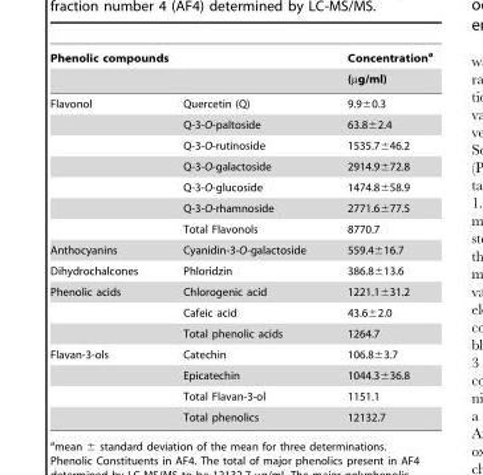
<table><thead><tr><td rowspan="2">Phenolic compounds</td><td rowspan="2"></td><td rowspan="2">Concentration<sup>a</sup> (µg/ml)</td></tr><tr></tr></thead><tbody><tr><td rowspan="7">Flavonol</td><td>Quercetin (Q)</td><td>9.9±0.3</td></tr><tr><td>Q-3-O-paltoside</td><td>63.8±2.4</td></tr><tr><td>Q-3-O-rutinoside</td><td>1535.7±46.2</td></tr><tr><td>Q-3-O-galactoside</td><td>2914.9±72.8</td></tr><tr><td>Q-3-O-glucoside</td><td>1474.8±58.9</td></tr><tr><td>Q-3-O-rhamnoside</td><td>2771.6±77.5</td></tr><tr><td>Total Flavonols</td><td>8770.7</td></tr><tr><td>Anthocyanins</td><td>Cyanidin-3-O-galactoside</td><td>559.4±16.7</td></tr><tr><td>Dihydrochalcones</td><td>Phloridzin</td><td>386.8±13.6</td></tr><tr><td rowspan="3">Phenolic acids</td><td>Chlorogenic acid</td><td>1221.1±31.2</td></tr><tr><td>Cafeic acid</td><td>43.6±2.0</td></tr><tr><td>Total phenolic acids</td><td>1264.7</td></tr><tr><td rowspan="4">Flavan-3-ols</td><td>Catechin</td><td>106.8±3.7</td></tr><tr><td>Epicatechin</td><td>1044.3±36.8</td></tr><tr><td>Total Flavan-3-ol</td><td>1151.1</td></tr><tr><td>Total phenolics</td><td>12132.7</td></tr></tbody></table>